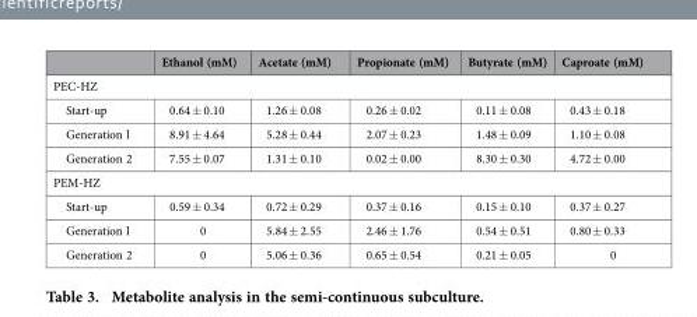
<table><thead><tr><td></td><td>Ethanol (mM)</td><td>Acetate (mM)</td><td>Propionate (mM)</td><td>Butyrate (mM)</td><td>Caproate (mM)</td></tr></thead><tbody><tr><td colspan="6">PEC-HZ</td></tr><tr><td>Start-up</td><td>0.64 ± 0.10</td><td>1.26 ± 0.08</td><td>0.26 ± 0.02</td><td>0.11 ± 0.08</td><td>0.43 ± 0.18</td></tr><tr><td>Generation l</td><td>8.91 ± 4.64</td><td>5.28 ± 0.44</td><td>2.07 ± 0.23</td><td>1.48 ± 0.09</td><td>1.10 ± 0.08</td></tr><tr><td>Generation 2</td><td>7.55 ± 0.07</td><td>1.31 ± 0.10</td><td>0.02 ± 0.00</td><td>8.30 ± 0.30</td><td>4.72 ± 0.00</td></tr><tr><td colspan="6">PEM-HZ</td></tr><tr><td>Start-up</td><td>0.59 ± 0.34</td><td>0.72 ± 0.29</td><td>0.37 ± 0.16</td><td>0.15 ± 0.10</td><td>0.37 ± 0.27</td></tr><tr><td>Generation l</td><td>0</td><td>5.84 ± 2.55</td><td>2.46 ± 1.76</td><td>0.54 ± 0.51</td><td>0.80 ± 0.33</td></tr><tr><td>Generation 2</td><td>0</td><td>5.06 ± 0.36</td><td>0.65 ± 0.54</td><td>0.21 ± 0.05</td><td>0</td></tr></tbody></table>